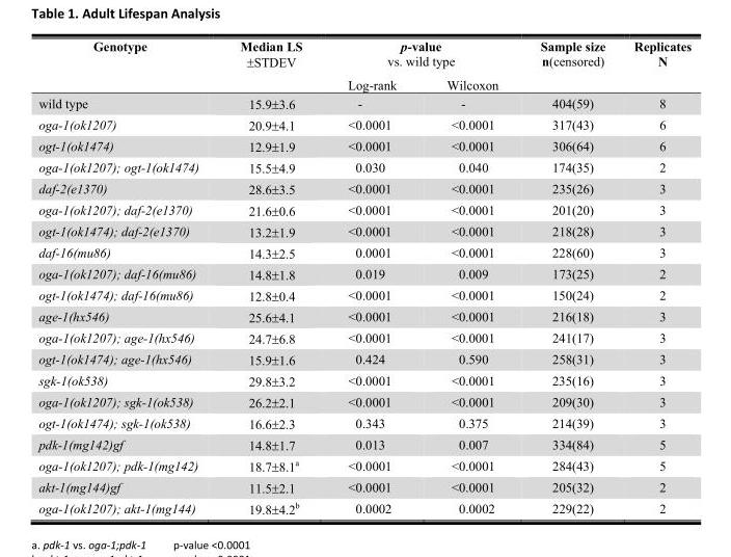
<table><thead><tr><td rowspan="2">Genotype</td><td rowspan="2">Median LS ±STDEV</td><td colspan="2">p-value vs. wild type</td><td rowspan="2">Sample size n(censored)</td><td rowspan="2">Replicates N</td></tr><tr><td>Log-rank</td><td>Wilcoxon</td></tr></thead><tbody><tr><td>wild type</td><td>15.9±3.6</td><td>-</td><td>-</td><td>404(59)</td><td>8</td></tr><tr><td>oga-1(ok1207)</td><td>20.9±4.1</td><td>&lt;0.0001</td><td>&lt;0.0001</td><td>317(43)</td><td>6</td></tr><tr><td>ogt-1(ok1474)</td><td>12.9±1.9</td><td>&lt;0.0001</td><td>&lt;0.0001</td><td>306(64)</td><td>6</td></tr><tr><td>oga-1(ok1207); ogt-1(ok1474)</td><td>15.5±4.9</td><td>0.030</td><td>0.040</td><td>174(35)</td><td>2</td></tr><tr><td>daf-2(e1370)</td><td>28.6±3.5</td><td>&lt;0.0001</td><td>&lt;0.0001</td><td>235(26)</td><td>3</td></tr><tr><td>oga-1(ok1207); daf-2(e1370)</td><td>21.6±0.6</td><td>&lt;0.0001</td><td>&lt;0.0001</td><td>201(20)</td><td>3</td></tr><tr><td>ogt-1(ok1474); daf-2(e1370)</td><td>13.2±1.9</td><td>&lt;0.0001</td><td>&lt;0.0001</td><td>218(28)</td><td>3</td></tr><tr><td>daf-16(mu86)</td><td>14.3±2.5</td><td>0.0001</td><td>&lt;0.0001</td><td>228(60)</td><td>3</td></tr><tr><td>oga-1(ok1207); daf-16(mu86)</td><td>14.8±1.8</td><td>0.019</td><td>0.009</td><td>173(25)</td><td>2</td></tr><tr><td>ogt-1(ok1474); daf-16(mu86)</td><td>12.8±0.4</td><td>&lt;0.0001</td><td>&lt;0.0001</td><td>150(24)</td><td>2</td></tr><tr><td>age-1(hx546)</td><td>25.6±4.1</td><td>&lt;0.0001</td><td>&lt;0.0001</td><td>216(18)</td><td>3</td></tr><tr><td>oga-1(ok1207); age-1(hx546)</td><td>24.7±6.8</td><td>&lt;0.0001</td><td>&lt;0.0001</td><td>241(17)</td><td>3</td></tr><tr><td>ogt-1(ok1474); age-1(hx546)</td><td>15.9±1.6</td><td>0.424</td><td>0.590</td><td>258(31)</td><td>3</td></tr><tr><td>sgk-1(ok538)</td><td>29.8±3.2</td><td>&lt;0.0001</td><td>&lt;0.0001</td><td>235(16)</td><td>3</td></tr><tr><td>oga-1(ok1207); sgk-1(ok538)</td><td>26.2±2.1</td><td>&lt;0.0001</td><td>&lt;0.0001</td><td>209(30)</td><td>3</td></tr><tr><td>ogt-1(ok1474); sgk-1(ok538)</td><td>16.6±2.3</td><td>0.343</td><td>0.375</td><td>214(39)</td><td>3</td></tr><tr><td>pdk-1(mg142)gf</td><td>14.8±1.7</td><td>0.013</td><td>0.007</td><td>334(84)</td><td>5</td></tr><tr><td>oga-1(ok1207); pdk-1(mg142)</td><td>18.7±8.1<sup>a</sup></td><td>&lt;0.0001</td><td>&lt;0.0001</td><td>284(43)</td><td>5</td></tr><tr><td>akt-1(mg144)gf</td><td>11.5±2.1</td><td>&lt;0.0001</td><td>&lt;0.0001</td><td>205(32)</td><td>2</td></tr><tr><td>oga-1(ok1207); akt-1(mg144)</td><td>19.8±4.2<sup>b</sup></td><td>0.0002</td><td>0.0002</td><td>229(22)</td><td>2</td></tr></tbody></table>